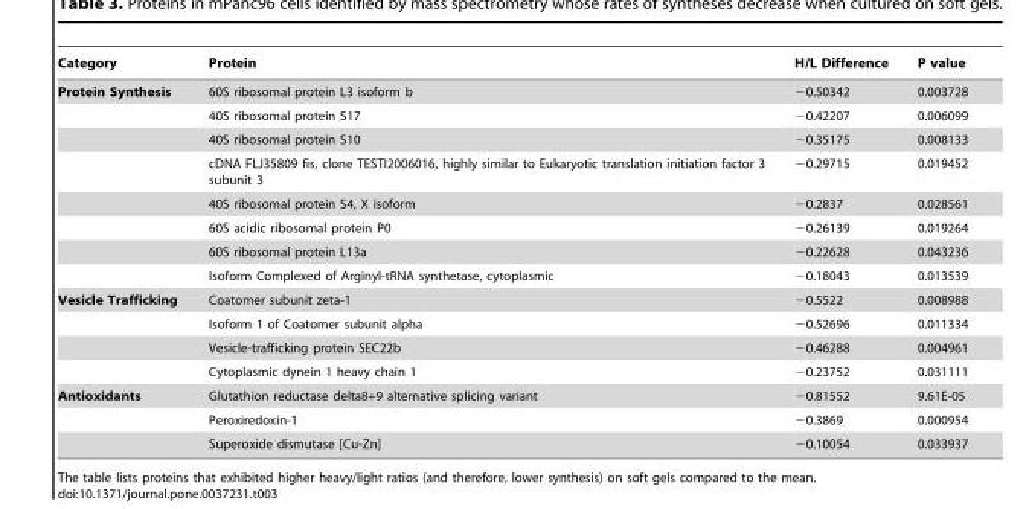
<table><thead><tr><td>Category</td><td>Protein</td><td>H/L Difference</td><td>P value</td></tr></thead><tbody><tr><td rowspan="8">Protein Synthesis</td><td>60S ribosomal protein L3 isoform b</td><td>−0.50342</td><td>0.003728</td></tr><tr><td>40S ribosomal protein S17</td><td>−0.42207</td><td>0.006099</td></tr><tr><td>40S ribosomal protein S10</td><td>−0.35175</td><td>0.008133</td></tr><tr><td>cDNA FLJ35809 fis, clone TESTI2006016, highly similar to Eukaryotic translation initiation factor 3 subunit 3</td><td>−0.29715</td><td>0.019452</td></tr><tr><td>40S ribosomal protein S4, X isoform</td><td>−0.2837</td><td>0.028561</td></tr><tr><td>60S acidic ribosomal protein P0</td><td>−0.26139</td><td>0.019264</td></tr><tr><td>60S ribosomal protein L13a</td><td>−0.22628</td><td>0.043236</td></tr><tr><td>Isoform Complexed of Arginyl-tRNA synthetase, cytoplasmic</td><td>−0.18043</td><td>0.013539</td></tr><tr><td rowspan="4">Vesicle Trafficking</td><td>Coatomer subunit zeta-1</td><td>−0.5522</td><td>0.008988</td></tr><tr><td>Isoform 1 of Coatomer subunit alpha</td><td>−0.52696</td><td>0.011334</td></tr><tr><td>Vesicle-trafficking protein SEC22b</td><td>−0.46288</td><td>0.004961</td></tr><tr><td>Cytoplasmic dynein 1 heavy chain 1</td><td>−0.23752</td><td>0.031111</td></tr><tr><td rowspan="3">Antioxidants</td><td>Glutathion reductase delta8+9 alternative splicing variant</td><td>−0.81552</td><td>9.61E-05</td></tr><tr><td>Peroxiredoxin-1</td><td>−0.3869</td><td>0.000954</td></tr><tr><td>Superoxide dismutase [Cu-Zn]</td><td>−0.10054</td><td>0.033937</td></tr></tbody></table>